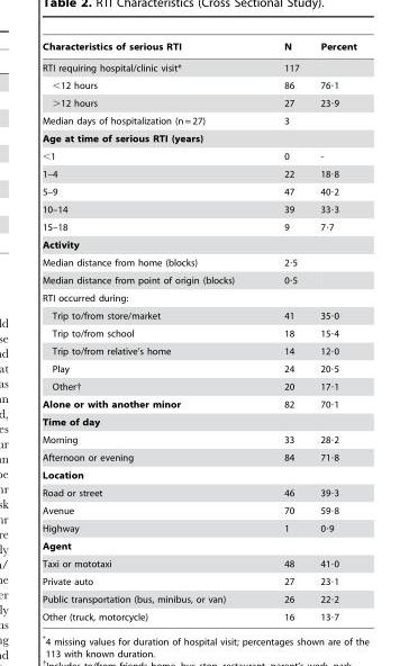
<table><thead><tr><td>Characteristics of serious RTI</td><td>N</td><td>Percent</td></tr></thead><tbody><tr><td>RTI requiring hospital/clinic visit*</td><td>117</td><td></td></tr><tr><td>&lt;12 hours</td><td>86</td><td>76·1</td></tr><tr><td>&gt;12 hours</td><td>27</td><td>23·9</td></tr><tr><td>Median days of hospitalization (n = 27)</td><td>3</td><td></td></tr><tr><td colspan="3">Age at time of serious RTI (years)</td></tr><tr><td>&lt;1</td><td>0</td><td>-</td></tr><tr><td>1–4</td><td>22</td><td>18·8</td></tr><tr><td>5–9</td><td>47</td><td>40·2</td></tr><tr><td>10–14</td><td>39</td><td>33·3</td></tr><tr><td>15–18</td><td>9</td><td>7·7</td></tr><tr><td colspan="3">Activity</td></tr><tr><td>Median distance from home (blocks)</td><td>2·5</td><td></td></tr><tr><td>Median distance from point of origin (blocks)</td><td>0·5</td><td></td></tr><tr><td colspan="3">RTI occurred during:</td></tr><tr><td>Trip to/from store/market</td><td>41</td><td>35·0</td></tr><tr><td>Trip to/from school</td><td>18</td><td>15·4</td></tr><tr><td>Trip to/from relative’s home</td><td>14</td><td>12·0</td></tr><tr><td>Play</td><td>24</td><td>20·5</td></tr><tr><td>Other†</td><td>20</td><td>17·1</td></tr><tr><td>Alone or with another minor</td><td>82</td><td>70·1</td></tr><tr><td colspan="3">Time of day</td></tr><tr><td>Morning</td><td>33</td><td>28·2</td></tr><tr><td>Afternoon or evening</td><td>84</td><td>71·8</td></tr><tr><td colspan="3">Location</td></tr><tr><td>Road or street</td><td>46</td><td>39·3</td></tr><tr><td>Avenue</td><td>70</td><td>59·8</td></tr><tr><td>Highway</td><td>1</td><td>0·9</td></tr><tr><td colspan="3">Agent</td></tr><tr><td>Taxi or mototaxi</td><td>48</td><td>41·0</td></tr><tr><td>Private auto</td><td>27</td><td>23·1</td></tr><tr><td>Public transportation (bus, minibus, or van)</td><td>26</td><td>22·2</td></tr><tr><td>Other (truck, motorcycle)</td><td>16</td><td>13·7</td></tr></tbody></table>